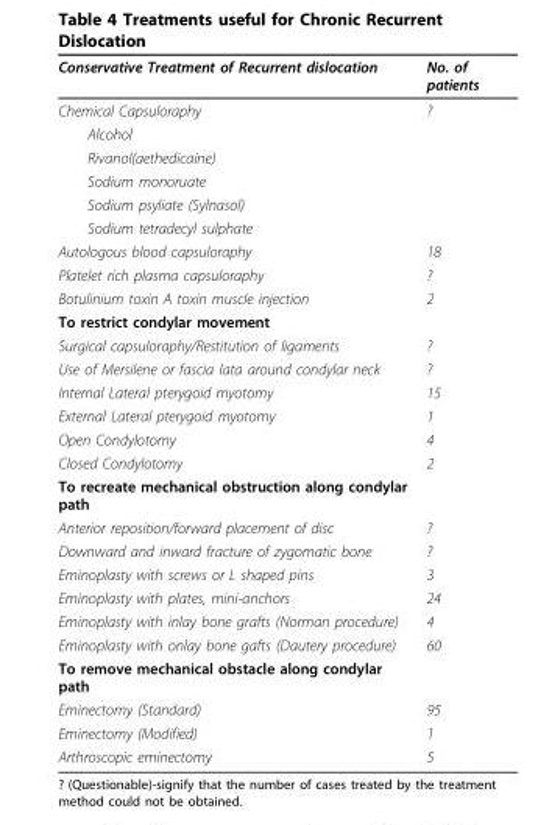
<table><thead><tr><td>Conservative Treatment of Recurrent dislocation</td><td>No. of patients</td></tr></thead><tbody><tr><td>Chemical Capsuloraphy</td><td>?</td></tr><tr><td colspan="2">Alcohol</td></tr><tr><td colspan="2">Rivanol(aethedicaine)</td></tr><tr><td colspan="2">Sodium monoruate</td></tr><tr><td colspan="2">Sodium psyliate (Sylnasol)</td></tr><tr><td colspan="2">Sodium tetradecyl sulphate</td></tr><tr><td>Autologous blood capsuloraphy</td><td>18</td></tr><tr><td>Platelet rich plasma capsuloraphy</td><td>?</td></tr><tr><td>Botulinium toxin A toxin muscle injection</td><td>2</td></tr><tr><td colspan="2">To restrict condylar movement</td></tr><tr><td>Surgical capsuloraphy/Restitution of ligaments</td><td>?</td></tr><tr><td>Use of Mersilene or fascia lata around condylar neck</td><td>?</td></tr><tr><td>Internal Lateral pterygoid myotomy</td><td>15</td></tr><tr><td>External Lateral pterygoid myotomy</td><td>1</td></tr><tr><td>Open Condylotomy</td><td>4</td></tr><tr><td>Closed Condylotomy</td><td>2</td></tr><tr><td colspan="2">To recreate mechanical obstruction along condylar path</td></tr><tr><td>Anterior reposition/forward placement of disc</td><td>?</td></tr><tr><td>Downward and inward fracture of zygomatic bone</td><td>?</td></tr><tr><td>Eminoplasty with screws or L shaped pins</td><td>3</td></tr><tr><td>Eminoplasty with plates, mini-anchors</td><td>24</td></tr><tr><td>Eminoplasty with inlay bone grafts (Norman procedure)</td><td>4</td></tr><tr><td>Eminoplasty with onlay bone gafts (Dautery procedure)</td><td>60</td></tr><tr><td colspan="2">To remove mechanical obstacle along condylar path</td></tr><tr><td>Eminectomy (Standard)</td><td>95</td></tr><tr><td>Eminectomy (Modified)</td><td>1</td></tr><tr><td>Arthroscopic eminectomy</td><td>5</td></tr></tbody></table>